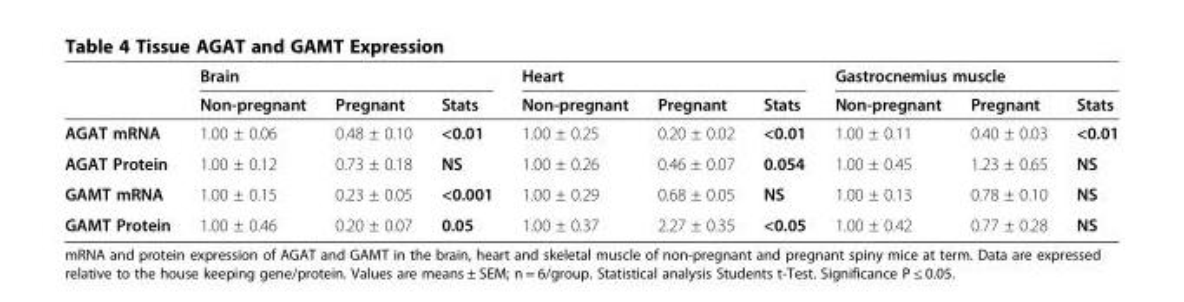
<table><thead><tr><td rowspan="2"></td><td colspan="3">Brain</td><td colspan="3">Heart</td><td colspan="3">Gastrocnemius muscle</td></tr><tr><td>Non-pregnant</td><td>Pregnant</td><td>Stats</td><td>Non-pregnant</td><td>Pregnant</td><td>Stats</td><td>Non-pregnant</td><td>Pregnant</td><td>Stats</td></tr></thead><tbody><tr><td>AGAT mRNA</td><td>1.00 ± 0.06</td><td>0.48 ± 0.10</td><td>&lt;0.01</td><td>1.00 ± 0.25</td><td>0.20 ± 0.02</td><td>&lt;0.01</td><td>1.00 ± 0.11</td><td>0.40 ± 0.03</td><td>&lt;0.01</td></tr><tr><td>AGAT Protein</td><td>1.00 ± 0.12</td><td>0.73 ± 0.18</td><td>NS</td><td>1.00 ± 0.26</td><td>0.46 ± 0.07</td><td>0.054</td><td>1.00 ± 0.45</td><td>1.23 ± 0.65</td><td>NS</td></tr><tr><td>GAMT mRNA</td><td>1.00 ± 0.15</td><td>0.23 ± 0.05</td><td>&lt;0.001</td><td>1.00 ± 0.29</td><td>0.68 ± 0.05</td><td>NS</td><td>1.00 ± 0.13</td><td>0.78 ± 0.10</td><td>NS</td></tr><tr><td>GAMT Protein</td><td>1.00 ± 0.46</td><td>0.20 ± 0.07</td><td>0.05</td><td>1.00 ± 0.37</td><td>2.27 ± 0.35</td><td>&lt;0.05</td><td>1.00 ± 0.42</td><td>0.77 ± 0.28</td><td>NS</td></tr></tbody></table>